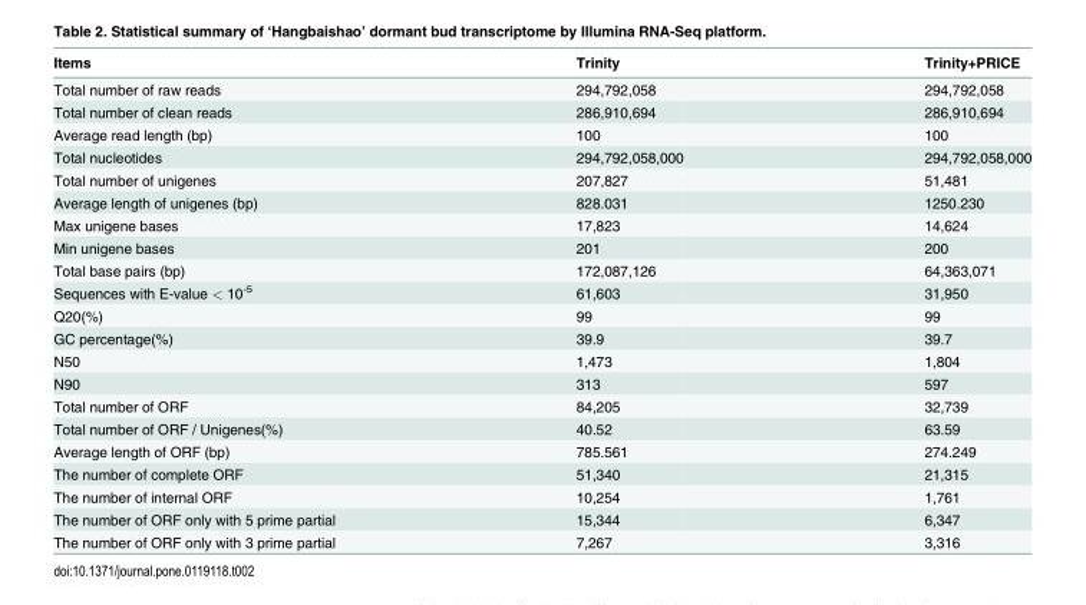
<table><thead><tr><td>Items</td><td>Trinity</td><td>Trinity+PRICE</td></tr></thead><tbody><tr><td>Total number of raw reads</td><td>294,792,058</td><td>294,792,058</td></tr><tr><td>Total number of clean reads</td><td>286,910,694</td><td>286,910,694</td></tr><tr><td>Average read length (bp)</td><td>100</td><td>100</td></tr><tr><td>Total nucleotides</td><td>294,792,058,000</td><td>294,792,058,000</td></tr><tr><td>Total number of unigenes</td><td>207,827</td><td>51,481</td></tr><tr><td>Average length of unigenes (bp)</td><td>828.031</td><td>1250.230</td></tr><tr><td>Max unigene bases</td><td>17,823</td><td>14,624</td></tr><tr><td>Min unigene bases</td><td>201</td><td>200</td></tr><tr><td>Total base pairs (bp)</td><td>172,087,126</td><td>64,363,071</td></tr><tr><td>Sequences with E-value &lt; 10<sup>-5</sup></td><td>61,603</td><td>31,950</td></tr><tr><td>Q20(%)</td><td>99</td><td>99</td></tr><tr><td>GC percentage(%)</td><td>39.9</td><td>39.7</td></tr><tr><td>N50</td><td>1,473</td><td>1,804</td></tr><tr><td>N90</td><td>313</td><td>597</td></tr><tr><td>Total number of ORF</td><td>84,205</td><td>32,739</td></tr><tr><td>Total number of ORF / Unigenes(%)</td><td>40.52</td><td>63.59</td></tr><tr><td>Average length of ORF (bp)</td><td>785.561</td><td>274.249</td></tr><tr><td>The number of complete ORF</td><td>51,340</td><td>21,315</td></tr><tr><td>The number of internal ORF</td><td>10,254</td><td>1,761</td></tr><tr><td>The number of ORF only with 5 prime partial</td><td>15,344</td><td>6,347</td></tr><tr><td>The number of ORF only with 3 prime partial</td><td>7,267</td><td>3,316</td></tr></tbody></table>